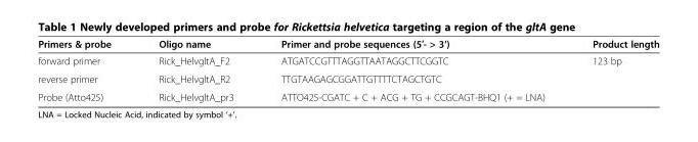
<table><thead><tr><td>Primers &amp; probe</td><td>Oligo name</td><td>Primer and probe sequences (5′- &gt; 3’)</td><td>Product length</td></tr></thead><tbody><tr><td>forward primer</td><td>Rick_HelvgltA_F2</td><td>ATGATCCGTTTAGGTTAATAGGCTTCGGTC</td><td rowspan="3">123 bp</td></tr><tr><td>reverse primer</td><td>Rick_HelvgltA_R2</td><td>TTGTAAGAGCGGATTGTTTTCTAGCTGTC</td></tr><tr><td>Probe (Atto425)</td><td>Rick_HelvgltA_pr3</td><td>ATTO425-CGATC + C + ACG + TG + CCGCAGT-BHQ1 (+ = LNA)</td></tr></tbody></table>